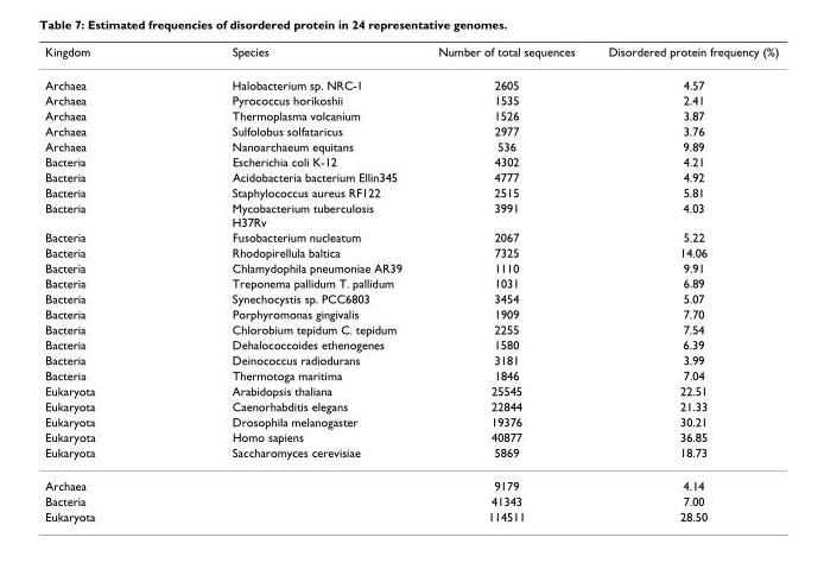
<table><thead><tr><td>Kingdom</td><td>Species</td><td>Number of total sequences</td><td>Disordered protein frequency (%)</td></tr></thead><tbody><tr><td>Archaea</td><td>Halobacterium sp. NRC-1</td><td>2605</td><td>4.57</td></tr><tr><td>Archaea</td><td>Pyrococcus horikoshii</td><td>1535</td><td>2.41</td></tr><tr><td>Archaea</td><td>Thermoplasma volcanium</td><td>1526</td><td>3.87</td></tr><tr><td>Archaea</td><td>Sulfolobus solfataricus</td><td>2977</td><td>3.76</td></tr><tr><td>Archaea</td><td>Nanoarchaeum equitans</td><td>536</td><td>9.89</td></tr><tr><td>Bacteria</td><td>Escherichia coli K-12</td><td>4302</td><td>4.21</td></tr><tr><td>Bacteria</td><td>Acidobacteria bacterium Ellin345</td><td>4777</td><td>4.92</td></tr><tr><td>Bacteria</td><td>Staphylococcus aureus RF122</td><td>2515</td><td>5.81</td></tr><tr><td>Bacteria</td><td>Mycobacterium tuberculosis H37Rv</td><td>3991</td><td>4.03</td></tr><tr><td>Bacteria</td><td>Fusobacterium nucleatum</td><td>2067</td><td>5.22</td></tr><tr><td>Bacteria</td><td>Rhodopirellula baltica</td><td>7325</td><td>14.06</td></tr><tr><td>Bacteria</td><td>Chlamydophila pneumoniae AR39</td><td>1110</td><td>9.91</td></tr><tr><td>Bacteria</td><td>Treponema pallidum T. pallidum</td><td>1031</td><td>6.89</td></tr><tr><td>Bacteria</td><td>Synechocystis sp. PCC6803</td><td>3454</td><td>5.07</td></tr><tr><td>Bacteria</td><td>Porphyromonas gingivalis</td><td>1909</td><td>7.70</td></tr><tr><td>Bacteria</td><td>Chlorobium tepidum C. tepidum</td><td>2255</td><td>7.54</td></tr><tr><td>Bacteria</td><td>Dehalococcoides ethenogenes</td><td>1580</td><td>6.39</td></tr><tr><td>Bacteria</td><td>Deinococcus radiodurans</td><td>3181</td><td>3.99</td></tr><tr><td>Bacteria</td><td>Thermotoga maritima</td><td>1846</td><td>7.04</td></tr><tr><td>Eukaryota</td><td>Arabidopsis thaliana</td><td>25545</td><td>22.51</td></tr><tr><td>Eukaryota</td><td>Caenorhabditis elegans</td><td>22844</td><td>21.33</td></tr><tr><td>Eukaryota</td><td>Drosophila melanogaster</td><td>19376</td><td>30.21</td></tr><tr><td>Eukaryota</td><td>Homo sapiens</td><td>40877</td><td>36.85</td></tr><tr><td>Eukaryota</td><td>Saccharomyces cerevisiae</td><td>5869</td><td>18.73</td></tr><tr><td>Archaea</td><td></td><td>9179</td><td>4.14</td></tr><tr><td>Bacteria</td><td></td><td>41343</td><td>7.00</td></tr><tr><td>Eukaryota</td><td></td><td>114511</td><td>28.50</td></tr></tbody></table>